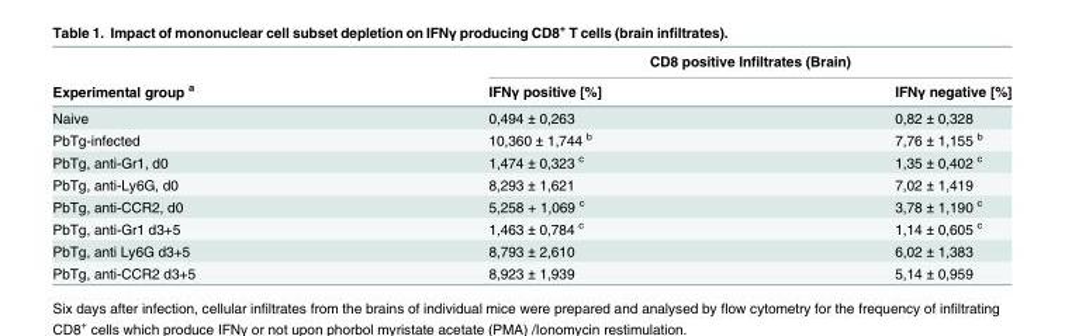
<table><thead><tr><td rowspan="2">Experimental group <sup>a</sup></td><td colspan="2">CD8 positive Infiltrates (Brain)</td></tr><tr><td>IFNγ positive [%]</td><td>IFNγ negative [%]</td></tr></thead><tbody><tr><td>Naive</td><td>0,494 ± 0,263</td><td>0,82 ± 0,328</td></tr><tr><td>PbTg-infected</td><td>10,360 ± 1,744 <sup>b</sup></td><td>7,76 ± 1,155 <sup>b</sup></td></tr><tr><td>PbTg, anti-Gr1, d0</td><td>1,474 ± 0,323 <sup>c</sup></td><td>1,35 ± 0,402 <sup>c</sup></td></tr><tr><td>PbTg, anti-Ly6G, d0</td><td>8,293 ± 1,621</td><td>7,02 ± 1,419</td></tr><tr><td>PbTg, anti-CCR2, d0</td><td>5,258 + 1,069 <sup>c</sup></td><td>3,78 ± 1,190 <sup>c</sup></td></tr><tr><td>PbTg, anti-Gr1 d3+5</td><td>1,463 ± 0,784 <sup>c</sup></td><td>1,14 ± 0,605 <sup>c</sup></td></tr><tr><td>PbTg, anti Ly6G d3+5</td><td>8,793 ± 2,610</td><td>6,02 ± 1,383</td></tr><tr><td>PbTg, anti-CCR2 d3+5</td><td>8,923 ± 1,939</td><td>5,14 ± 0,959</td></tr></tbody></table>